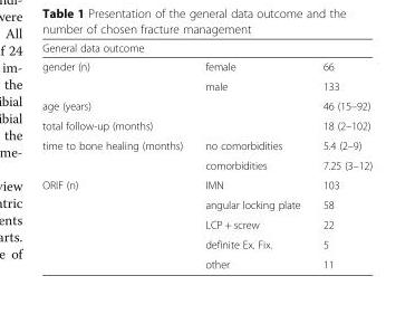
<table><thead><tr><td>General data outcome</td><td></td><td></td></tr></thead><tbody><tr><td rowspan="2">gender (n)</td><td>female</td><td>66</td></tr><tr><td>male</td><td>133</td></tr><tr><td>age (years)</td><td></td><td>46 (15–92)</td></tr><tr><td>total follow-up (months)</td><td></td><td>18 (2–102)</td></tr><tr><td rowspan="2">time to bone healing (months)</td><td>no comorbidities</td><td>5.4 (2–9)</td></tr><tr><td>comorbidities</td><td>7.25 (3–12)</td></tr><tr><td rowspan="5">ORIF (n)</td><td>IMN</td><td>103</td></tr><tr><td>angular locking plate</td><td>58</td></tr><tr><td>LCP + screw</td><td>22</td></tr><tr><td>definite Ex. Fix.</td><td>5</td></tr><tr><td>other</td><td>11</td></tr></tbody></table>